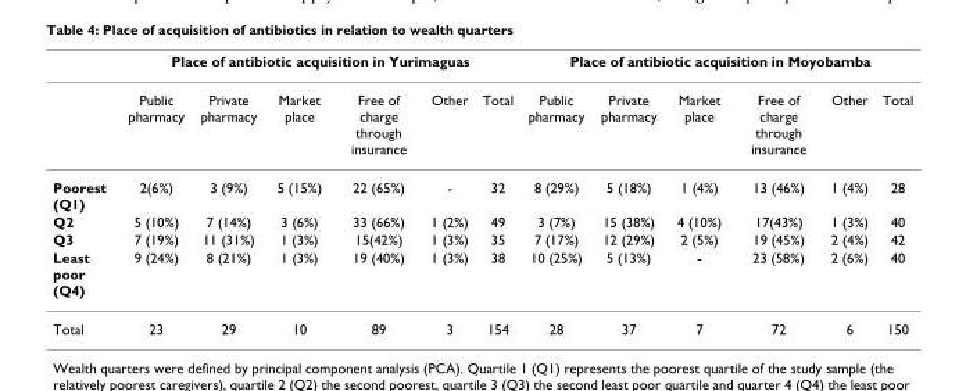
<table><thead><tr><td rowspan="2"></td><td colspan="6">Place of antibiotic acquisition in Yurimaguas</td><td colspan="6">Place of antibiotic acquisition in Moyobamba</td></tr><tr><td>Public pharmacy</td><td>Private pharmacy</td><td>Market place</td><td>Free of charge through insurance</td><td>Other</td><td>Total</td><td>Public pharmacy</td><td>Private pharmacy</td><td>Market place</td><td>Free of charge through insurance</td><td>Other</td><td>Total</td></tr></thead><tbody><tr><td>Poorest (Q1)</td><td>2(6%)</td><td>3 (9%)</td><td>5 (15%)</td><td>22 (65%)</td><td>-</td><td>32</td><td>8 (29%)</td><td>5 (18%)</td><td>1 (4%)</td><td>13 (46%)</td><td>1 (4%)</td><td>28</td></tr><tr><td>Q2</td><td>5 (10%)</td><td>7 (14%)</td><td>3 (6%)</td><td>33 (66%)</td><td>1 (2%)</td><td>49</td><td>3 (7%)</td><td>15 (38%)</td><td>4 (10%)</td><td>17(43%)</td><td>1 (3%)</td><td>40</td></tr><tr><td>Q3</td><td>7 (19%)</td><td>11 (31%)</td><td>1 (3%)</td><td>15(42%)</td><td>1 (3%)</td><td>35</td><td>7 (17%)</td><td>12 (29%)</td><td>2 (5%)</td><td>19 (45%)</td><td>2 (4%)</td><td>42</td></tr><tr><td>Least poor (Q4)</td><td>9 (24%)</td><td>8 (21%)</td><td>1 (3%)</td><td>19 (40%)</td><td>1 (3%)</td><td>38</td><td>10 (25%)</td><td>5 (13%)</td><td>-</td><td>23 (58%)</td><td>2 (6%)</td><td>40</td></tr><tr><td>Total</td><td>23</td><td>29</td><td>10</td><td>89</td><td>3</td><td>154</td><td>28</td><td>37</td><td>7</td><td>72</td><td>6</td><td>150</td></tr></tbody></table>